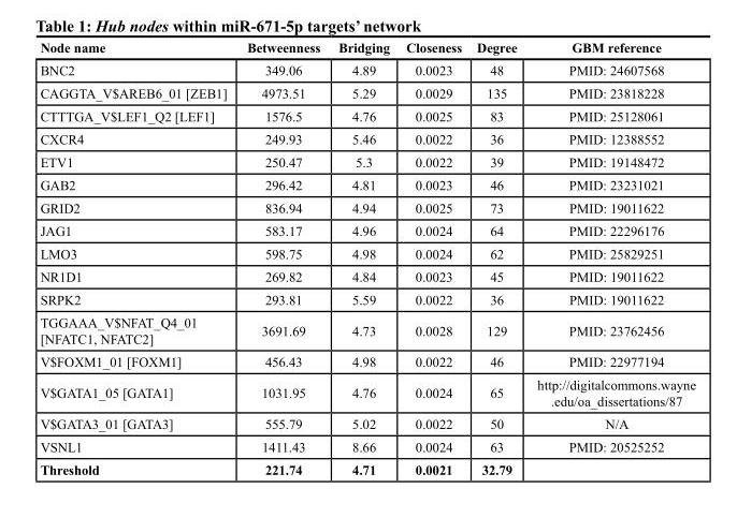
<table><thead><tr><td>Node name</td><td>Betweenness</td><td>Bridging</td><td>Closeness</td><td>Degree</td><td>GBM reference</td></tr></thead><tbody><tr><td>BNC2</td><td>349.06</td><td>4.89</td><td>0.0023</td><td>48</td><td>PMID: 24607568</td></tr><tr><td>CAGGTA_V$AREB6_01 [ZEB1]</td><td>4973.51</td><td>5.29</td><td>0.0029</td><td>135</td><td>PMID: 23818228</td></tr><tr><td>CTTTGA_V$LEF1_Q2 [LEF1]</td><td>1576.5</td><td>4.76</td><td>0.0025</td><td>83</td><td>PMID: 25128061</td></tr><tr><td>CXCR4</td><td>249.93</td><td>5.46</td><td>0.0022</td><td>36</td><td>PMID: 12388552</td></tr><tr><td>ETV1</td><td>250.47</td><td>5.3</td><td>0.0022</td><td>39</td><td>PMID: 19148472</td></tr><tr><td>GAB2</td><td>296.42</td><td>4.81</td><td>0.0023</td><td>46</td><td>PMID: 23231021</td></tr><tr><td>GRID2</td><td>836.94</td><td>4.94</td><td>0.0025</td><td>73</td><td>PMID: 19011622</td></tr><tr><td>JAG1</td><td>583.17</td><td>4.96</td><td>0.0024</td><td>64</td><td>PMID: 22296176</td></tr><tr><td>LMO3</td><td>598.75</td><td>4.98</td><td>0.0024</td><td>62</td><td>PMID: 25829251</td></tr><tr><td>NR1D1</td><td>269.82</td><td>4.84</td><td>0.0023</td><td>45</td><td>PMID: 19011622</td></tr><tr><td>SRPK2</td><td>293.81</td><td>5.59</td><td>0.0022</td><td>36</td><td>PMID: 19011622</td></tr><tr><td>TGGAAA_V$NFAT_Q4_01 [NFATC1, NFATC2]</td><td>3691.69</td><td>4.73</td><td>0.0028</td><td>129</td><td>PMID: 23762456</td></tr><tr><td>V$FOXM1_01 [FOXM1]</td><td>456.43</td><td>4.98</td><td>0.0022</td><td>46</td><td>PMID: 22977194</td></tr><tr><td>V$GATA1_05 [GATA1]</td><td>1031.95</td><td>4.76</td><td>0.0024</td><td>65</td><td>http://digitalcommons.wayne .edu/oa_dissertations/87</td></tr><tr><td>V$GATA3_01 [GATA3]</td><td>555.79</td><td>5.02</td><td>0.0022</td><td>50</td><td>N/A</td></tr><tr><td>VSNL1</td><td>1411.43</td><td>8.66</td><td>0.0024</td><td>63</td><td>PMID: 20525252</td></tr><tr><td>Threshold</td><td>221.74</td><td>4.71</td><td>0.0021</td><td>32.79</td><td></td></tr></tbody></table>